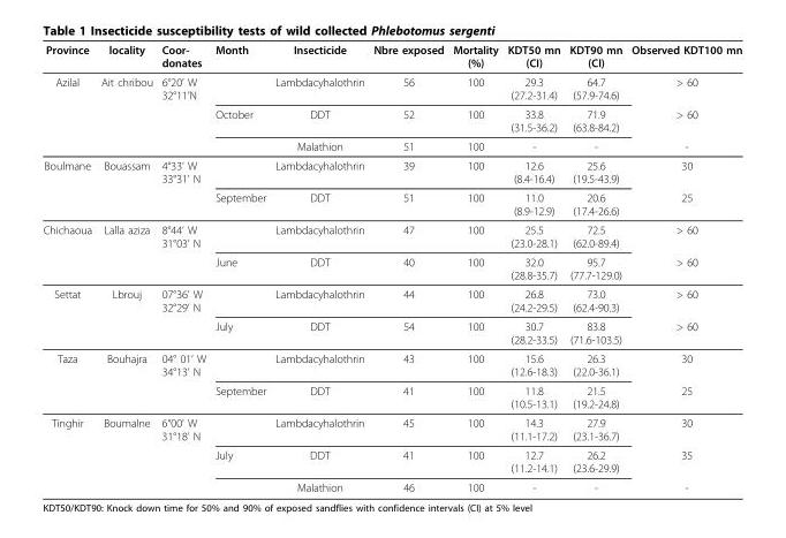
<table><thead><tr><td>Province</td><td>locality</td><td>Coor- donates</td><td>Month</td><td>Insecticide</td><td>Nbre exposed</td><td>Mortality (%)</td><td>KDT50 mn (CI)</td><td>KDT90 mn (CI)</td><td>Observed KDT100 mn</td></tr></thead><tbody><tr><td rowspan="3">Azilal</td><td>Ait chribou</td><td>6°20’ W 32°11’N</td><td></td><td>Lambdacyhalothrin</td><td>56</td><td>100</td><td>29.3 (27.2-31.4)</td><td>64.7 (57.9-74.6)</td><td>&gt; 60</td></tr><tr><td></td><td></td><td>October</td><td>DDT</td><td>52</td><td>100</td><td>33.8 (31.5-36.2)</td><td>71.9 (63.8-84.2)</td><td>&gt; 60</td></tr><tr><td></td><td></td><td></td><td>Malathion</td><td>51</td><td>100</td><td>-</td><td>-</td><td>-</td></tr><tr><td rowspan="2">Boulmane</td><td>Bouassam</td><td>4°33’ W 33°31’ N</td><td></td><td>Lambdacyhalothrin</td><td>39</td><td>100</td><td>12.6 (8.4-16.4)</td><td>25.6 (19.5-43.9)</td><td>30</td></tr><tr><td></td><td></td><td>September</td><td>DDT</td><td>51</td><td>100</td><td>11.0 (8.9-12.9)</td><td>20.6 (17.4-26.6)</td><td>25</td></tr><tr><td rowspan="2">Chichaoua</td><td>Lalla aziza</td><td>8°44’ W 31°03’ N</td><td></td><td>Lambdacyhalothrin</td><td>47</td><td>100</td><td>25.5 (23.0-28.1)</td><td>72.5 (62.0-89.4)</td><td>&gt; 60</td></tr><tr><td></td><td></td><td>June</td><td>DDT</td><td>40</td><td>100</td><td>32.0 (28.8-35.7)</td><td>95.7 (77.7-129.0)</td><td>&gt; 60</td></tr><tr><td rowspan="2">Settat</td><td>Lbrouj</td><td>07°36’ W 32°29’ N</td><td></td><td>Lambdacyhalothrin</td><td>44</td><td>100</td><td>26.8 (24.2-29.5)</td><td>73.0 (62.4-90.3)</td><td>&gt; 60</td></tr><tr><td></td><td></td><td>July</td><td>DDT</td><td>54</td><td>100</td><td>30.7 (28.2-33.5)</td><td>83.8 (71.6-103.5)</td><td>&gt; 60</td></tr><tr><td rowspan="2">Taza</td><td>Bouhajra</td><td>04° 01’ W 34°13’ N</td><td></td><td>Lambdacyhalothrin</td><td>43</td><td>100</td><td>15.6 (12.6-18.3)</td><td>26.3 (22.0-36.1)</td><td>30</td></tr><tr><td></td><td></td><td>September</td><td>DDT</td><td>41</td><td>100</td><td>11.8 (10.5-13.1)</td><td>21.5 (19.2-24.8)</td><td>25</td></tr><tr><td rowspan="3">Tinghir</td><td>Boumalne</td><td>6°00’ W 31°18’ N</td><td></td><td>Lambdacyhalothrin</td><td>45</td><td>100</td><td>14.3 (11.1-17.2)</td><td>27.9 (23.1-36.7)</td><td>30</td></tr><tr><td></td><td></td><td>July</td><td>DDT</td><td>41</td><td>100</td><td>12.7 (11.2-14.1)</td><td>26.2 (23.6-29.9)</td><td>35</td></tr><tr><td></td><td></td><td></td><td>Malathion</td><td>46</td><td>100</td><td>-</td><td>-</td><td>-</td></tr></tbody></table>